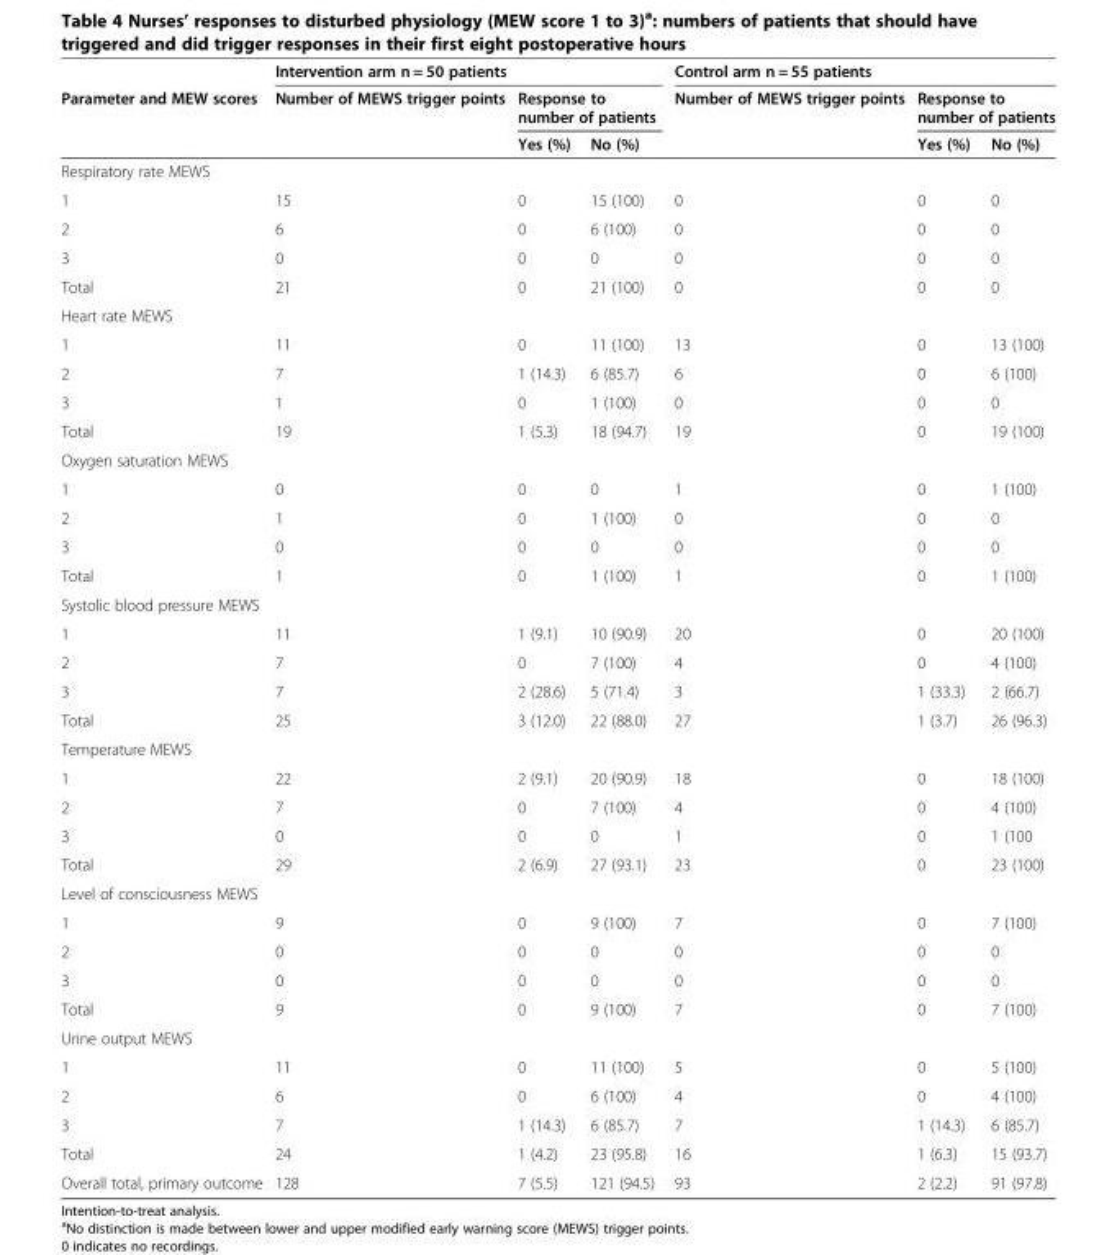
<table><thead><tr><td rowspan="3">Parameter and MEW scores</td><td colspan="3">Intervention arm n = 50 patients</td><td colspan="3">Control arm n = 55 patients</td></tr><tr><td rowspan="2">Number of MEWS trigger points</td><td colspan="2">Response to number of patients</td><td rowspan="2">Number of MEWS trigger points</td><td colspan="2">Response to number of patients</td></tr><tr><td>Yes (%)</td><td>No (%)</td><td>Yes (%)</td><td>No (%)</td></tr></thead><tbody><tr><td colspan="7">Respiratory rate MEWS</td></tr><tr><td>1</td><td>15</td><td>0</td><td>15 (100)</td><td>0</td><td>0</td><td>0</td></tr><tr><td>2</td><td>6</td><td>0</td><td>6 (100)</td><td>0</td><td>0</td><td>0</td></tr><tr><td>3</td><td>0</td><td>0</td><td>0</td><td>0</td><td>0</td><td>0</td></tr><tr><td>Total</td><td>21</td><td>0</td><td>21 (100)</td><td>0</td><td>0</td><td>0</td></tr><tr><td colspan="7">Heart rate MEWS</td></tr><tr><td>1</td><td>11</td><td>0</td><td>11 (100)</td><td>13</td><td>0</td><td>13 (100)</td></tr><tr><td>2</td><td>7</td><td>1 (14.3)</td><td>6 (85.7)</td><td>6</td><td>0</td><td>6 (100)</td></tr><tr><td>3</td><td>1</td><td>0</td><td>1 (100)</td><td>0</td><td>0</td><td>0</td></tr><tr><td>Total</td><td>19</td><td>1 (5.3)</td><td>18 (94.7)</td><td>19</td><td>0</td><td>19 (100)</td></tr><tr><td colspan="7">Oxygen saturation MEWS</td></tr><tr><td>1</td><td>0</td><td>0</td><td>0</td><td>1</td><td>0</td><td>1 (100)</td></tr><tr><td>2</td><td>1</td><td>0</td><td>1 (100)</td><td>0</td><td>0</td><td>0</td></tr><tr><td>3</td><td>0</td><td>0</td><td>0</td><td>0</td><td>0</td><td>0</td></tr><tr><td>Total</td><td>1</td><td>0</td><td>1 (100)</td><td>1</td><td>0</td><td>1 (100)</td></tr><tr><td colspan="7">Systolic blood pressure MEWS</td></tr><tr><td>1</td><td>11</td><td>1 (9.1)</td><td>10 (90.9)</td><td>20</td><td>0</td><td>20 (100)</td></tr><tr><td>2</td><td>7</td><td>0</td><td>7 (100)</td><td>4</td><td>0</td><td>4 (100)</td></tr><tr><td>3</td><td>7</td><td>2 (28.6)</td><td>5 (71.4)</td><td>3</td><td>1 (33.3)</td><td>2 (66.7)</td></tr><tr><td>Total</td><td>25</td><td>3 (12.0)</td><td>22 (88.0)</td><td>27</td><td>1 (3.7)</td><td>26 (96.3)</td></tr><tr><td colspan="7">Temperature MEWS</td></tr><tr><td>1</td><td>22</td><td>2 (9.1)</td><td>20 (90.9)</td><td>18</td><td>0</td><td>18 (100)</td></tr><tr><td>2</td><td>7</td><td>0</td><td>7 (100)</td><td>4</td><td>0</td><td>4 (100)</td></tr><tr><td>3</td><td>0</td><td>0</td><td>0</td><td>1</td><td>0</td><td>1 (100</td></tr><tr><td>Total</td><td>29</td><td>2 (6.9)</td><td>27 (93.1)</td><td>23</td><td>0</td><td>23 (100)</td></tr><tr><td colspan="7">Level of consciousness MEWS</td></tr><tr><td>1</td><td>9</td><td>0</td><td>9 (100)</td><td>7</td><td>0</td><td>7 (100)</td></tr><tr><td>2</td><td>0</td><td>0</td><td>0</td><td>0</td><td>0</td><td>0</td></tr><tr><td>3</td><td>0</td><td>0</td><td>0</td><td>0</td><td>0</td><td>0</td></tr><tr><td>Total</td><td>9</td><td>0</td><td>9 (100)</td><td>7</td><td>0</td><td>7 (100)</td></tr><tr><td colspan="7">Urine output MEWS</td></tr><tr><td>1</td><td>11</td><td>0</td><td>11 (100)</td><td>5</td><td>0</td><td>5 (100)</td></tr><tr><td>2</td><td>6</td><td>0</td><td>6 (100)</td><td>4</td><td>0</td><td>4 (100)</td></tr><tr><td>3</td><td>7</td><td>1 (14.3)</td><td>6 (85.7)</td><td>7</td><td>1 (14.3)</td><td>6 (85.7)</td></tr><tr><td>Total</td><td>24</td><td>1 (4.2)</td><td>23 (95.8)</td><td>16</td><td>1 (6.3)</td><td>15 (93.7)</td></tr><tr><td>Overall total, primary outcome</td><td>128</td><td>7 (5.5)</td><td>121 (94.5)</td><td>93</td><td>2 (2.2)</td><td>91 (97.8)</td></tr></tbody></table>